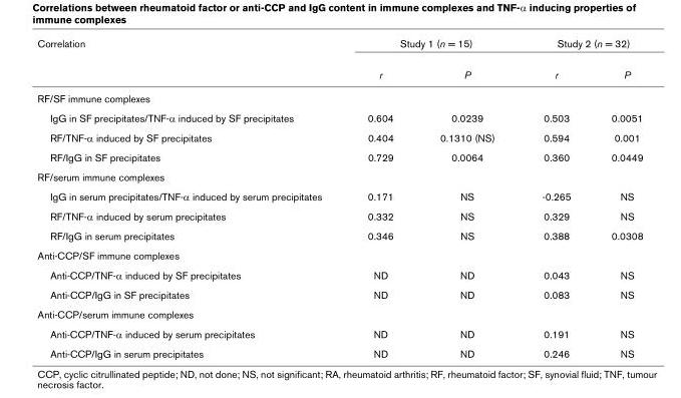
<table><thead><tr><td rowspan="2">Correlation</td><td colspan="2">Study 1 (n = 15)</td><td colspan="2">Study 2 (n = 32)</td></tr><tr><td>r</td><td>P</td><td>r</td><td>P</td></tr></thead><tbody><tr><td colspan="5">RF/SF immune complexes</td></tr><tr><td>IgG in SF precipitates/TNF-α induced by SF precipitates</td><td>0.604</td><td>0.0239</td><td>0.503</td><td>0.0051</td></tr><tr><td>RF/TNF-α induced by SF precipitates</td><td>0.404</td><td>0.1310 (NS)</td><td>0.594</td><td>0.001</td></tr><tr><td>RF/IgG in SF precipitates</td><td>0.729</td><td>0.0064</td><td>0.360</td><td>0.0449</td></tr><tr><td colspan="5">RF/serum immune complexes</td></tr><tr><td>IgG in serum precipitates/TNF-α induced by serum precipitates</td><td>0.171</td><td>NS</td><td>-0.265</td><td>NS</td></tr><tr><td>RF/TNF-α induced by serum precipitates</td><td>0.332</td><td>NS</td><td>0.329</td><td>NS</td></tr><tr><td>RF/IgG in serum precipitates</td><td>0.346</td><td>NS</td><td>0.388</td><td>0.0308</td></tr><tr><td colspan="5">Anti-CCP/SF immune complexes</td></tr><tr><td>Anti-CCP/TNF-α induced by SF precipitates</td><td>ND</td><td>ND</td><td>0.043</td><td>NS</td></tr><tr><td>Anti-CCP/IgG in SF precipitates</td><td>ND</td><td>ND</td><td>0.083</td><td>NS</td></tr><tr><td colspan="5">Anti-CCP/serum immune complexes</td></tr><tr><td>Anti-CCP/TNF-α induced by serum precipitates</td><td>ND</td><td>ND</td><td>0.191</td><td>NS</td></tr><tr><td>Anti-CCP/IgG in serum precipitates</td><td>ND</td><td>ND</td><td>0.246</td><td>NS</td></tr></tbody></table>